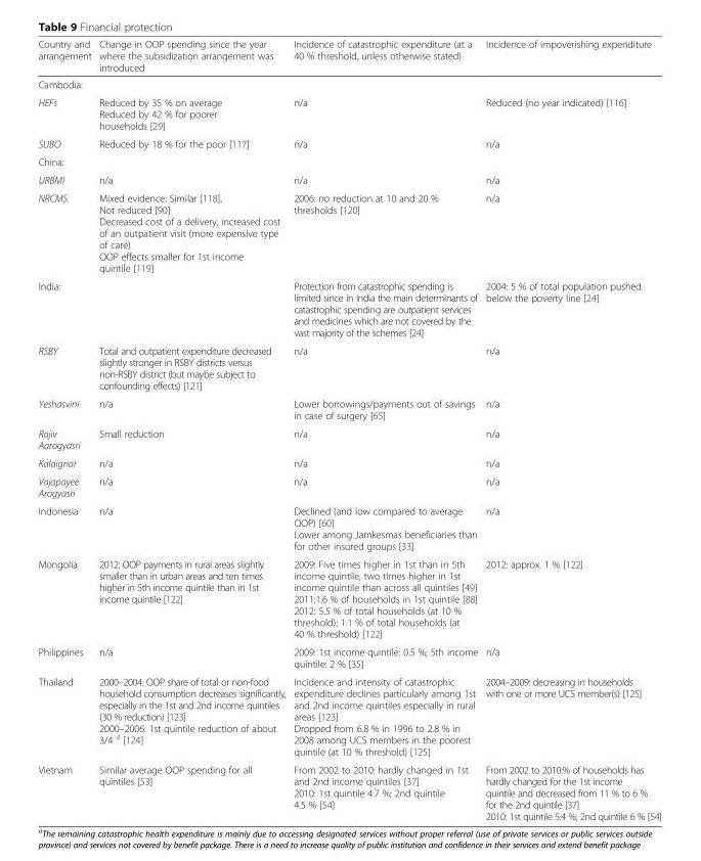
<table><thead><tr><td>Country and arrangement</td><td>Change in OOP spending since the year where the subsidization arrangement was introduced</td><td>Incidence of catastrophic expenditure (at a 40 % threshold, unless otherwise stated)</td><td>Incidence of impoverishing expenditure</td></tr></thead><tbody><tr><td colspan="4">Cambodia:</td></tr><tr><td>HEFs</td><td>Reduced by 35 % on average Reduced by 42 % for poorer households [29]</td><td>n/a</td><td>Reduced (no year indicated) [116]</td></tr><tr><td>SUBO</td><td>Reduced by 18 % for the poor [117]</td><td>n/a</td><td>n/a</td></tr><tr><td colspan="4">China:</td></tr><tr><td>URBMI</td><td>n/a</td><td>n/a</td><td>n/a</td></tr><tr><td>NRCMS</td><td>Mixed evidence: Similar [118], Not reduced [90] Decreased cost of a delivery, increased cost of an outpatient visit (more expensive type of care) OOP effects smaller for 1st income quintile [119]</td><td>2006: no reduction at 10 and 20 % thresholds [120]</td><td>n/a</td></tr><tr><td>India:</td><td></td><td>Protection from catastrophic spending is limited since in India the main determinants of catastrophic spending are outpatient services and medicines which are not covered by the vast majority of the schemes [24]</td><td>2004: 5 % of total population pushed below the poverty line [24]</td></tr><tr><td>RSBY</td><td>Total and outpatient expenditure decreased slightly stronger in RSBY districts versus non-RSBY district (but maybe subject to confounding effects) [121]</td><td>n/a</td><td>n/a</td></tr><tr><td>Yeshasvini</td><td>n/a</td><td>Lower borrowings/payments out of savings in case of surgery [65]</td><td>n/a</td></tr><tr><td>Rajiv Aarogyasri</td><td>Small reduction</td><td>n/a</td><td>n/a</td></tr><tr><td>Kalaignar</td><td>n/a</td><td>n/a</td><td>n/a</td></tr><tr><td>Vajapayee Arogyasri</td><td>n/a</td><td>n/a</td><td>n/a</td></tr><tr><td>Indonesia</td><td>n/a</td><td>Declined (and low compared to average OOP) [60] Lower among Jamkesmas beneficiaries than for other insured groups [33]</td><td>n/a</td></tr><tr><td>Mongolia</td><td>2012: OOP payments in rural areas slightly smaller than in urban areas and ten times higher in 5th income quintile than in 1st income quintile [122]</td><td>2009: Five times higher in 1st than in 5th income quintile, two times higher in 1st income quintile than across all quintiles [49] 2011:1.6 % of households in 1st quintile [88] 2012: 5.5 % of total households (at 10 % threshold); 1.1 % of total households (at 40 % threshold) [122]</td><td>2012: approx. 1 % [122]</td></tr><tr><td>Philippines</td><td>n/a</td><td>2009: 1st income quintile: 0.5 %; 5th income quintile: 2 % [35]</td><td>n/a</td></tr><tr><td>Thailand</td><td>2000–2004: OOP share of total or non-food household consumption decreases significantly, especially in the 1st and 2nd income quintiles (30 % reduction) [123] 2000–2006: 1st quintile reduction of about 3/4 <sup>a</sup> [124]</td><td>Incidence and intensity of catastrophic expenditure declines particularly among 1st and 2nd income quintiles especially in rural areas [123] Dropped from 6.8 % in 1996 to 2.8 % in 2008 among UCS members in the poorest quintile (at 10 % threshold) [125]</td><td>2004–2009: decreasing in households with one or more UCS member(s) [125]</td></tr><tr><td>Vietnam</td><td>Similar average OOP spending for all quintiles [53]</td><td>From 2002 to 2010: hardly changed in 1st and 2nd income quintiles [37] 2010: 1st quintile 4.7 %; 2nd quintile 4.5 % [54]</td><td>From 2002 to 2010:% of households has hardly changed for the 1st income quintile and decreased from 11 % to 6 % for the 2nd quintile [37] 2010: 1st quintile 5.4 %; 2nd quintile 6 % [54]</td></tr></tbody></table>